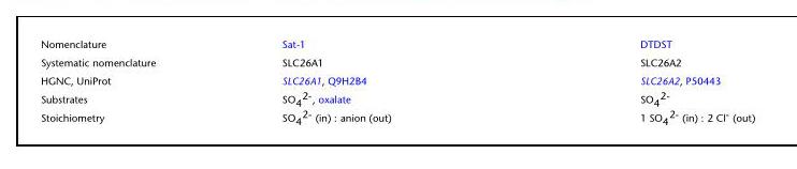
<table><tbody><tr><td>Nomenclature</td><td>Sat-1</td><td>DTDST</td></tr><tr><td>Systematic nomenclature</td><td>SLC26A1</td><td>SLC26A2</td></tr><tr><td>HGNC, UniProt</td><td>SLC26A1, Q9H2B4</td><td>SLC26A2, P50443</td></tr><tr><td>Substrates</td><td>SO<sub>4</sub><sup>2-</sup>, oxalate</td><td>SO<sub>4</sub><sup>2-</sup></td></tr><tr><td>Stoichiometry</td><td>SO<sub>4</sub><sup>2-</sup> (in) : anion (out)</td><td>1 SO<sub>4</sub><sup>2-</sup> (in) : 2 Cl<sup>-</sup> (out)</td></tr></tbody></table>